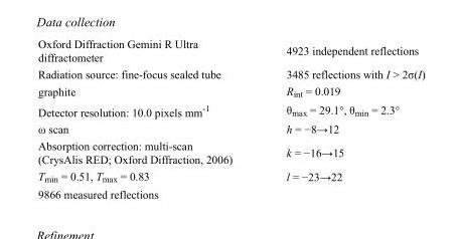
<table><tbody><tr><td>Oxford Diffraction Gemini R Ultra diffractometer</td><td>4923 independent reflections</td></tr><tr><td>Radiation source: fine-focus sealed tube</td><td>3485 reflections with I &gt; 2σ(I)</td></tr><tr><td>graphite</td><td>R<sub>int</sub> = 0.019</td></tr><tr><td>Detector resolution: 10.0 pixels mm<sup>-1</sup></td><td>θ<sub>max</sub> = 29.1°, θ<sub>min</sub> = 2.3°</td></tr><tr><td>ω scan</td><td>h = −8→12</td></tr><tr><td>Absorption correction: multi-scan (CrysAlis RED; Oxford Diffraction, 2006)</td><td>k = −16→15</td></tr><tr><td>T<sub>min</sub> = 0.51, T<sub>max</sub> = 0.83</td><td>l = −23→22</td></tr><tr><td>9866 measured reflections</td><td></td></tr></tbody></table>